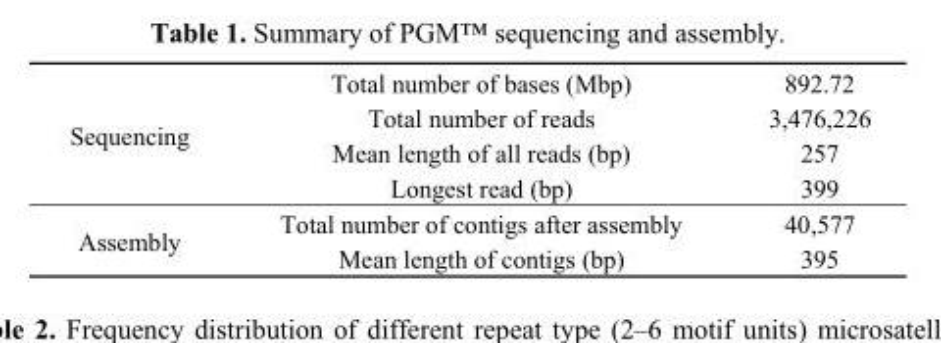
<table><tbody><tr><td rowspan="4">Sequencing</td><td>Total number of bases (Mbp)</td><td>892.72</td></tr><tr><td>Total number of reads</td><td>3,476,226</td></tr><tr><td>Mean length of all reads (bp)</td><td>257</td></tr><tr><td>Longest read (bp)</td><td>399</td></tr><tr><td rowspan="2">Assembly</td><td>Total number of contigs after assembly</td><td>40,577</td></tr><tr><td>Mean length of contigs (bp)</td><td>395</td></tr></tbody></table>